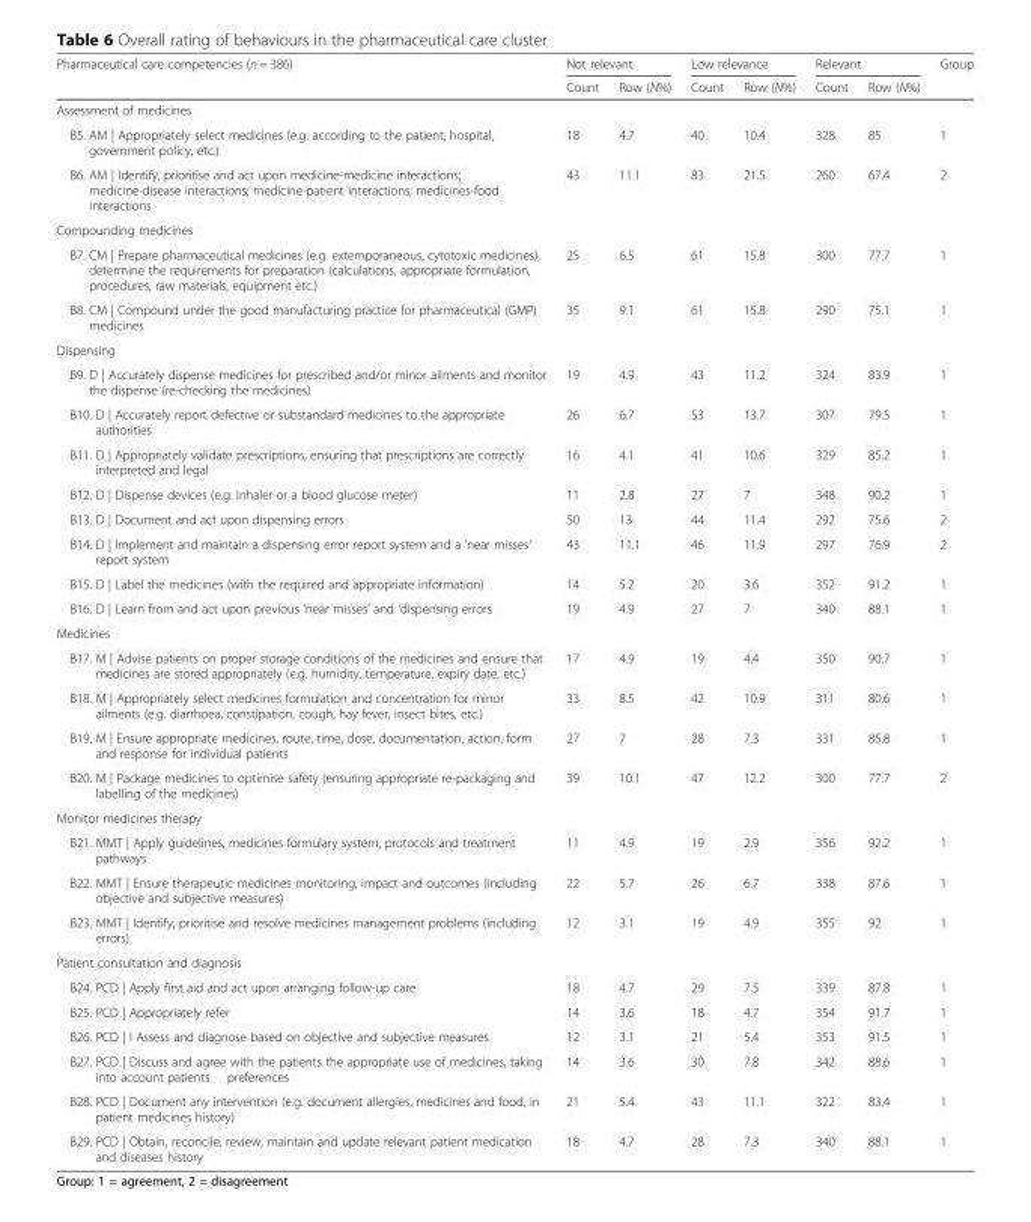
<table><thead><tr><td rowspan="2">Pharmaceutical care competencies (n = 386)</td><td colspan="2">Not relevant</td><td colspan="2">Low relevance</td><td colspan="2">Relevant</td><td rowspan="2">Group</td></tr><tr><td>Count</td><td>Row (N%)</td><td>Count</td><td>Row (N%)</td><td>Count</td><td>Row (N%)</td></tr></thead><tbody><tr><td colspan="8">Assessment of medicines</td></tr><tr><td>B5. AM | Appropriately select medicines (e.g. according to the patient, hospital, government policy, etc.)</td><td>18</td><td>4.7</td><td>40</td><td>10.4</td><td>328</td><td>85</td><td>1</td></tr><tr><td>B6. AM | Identify, prioritise and act upon medicine-medicine interactions; medicine-disease interactions; medicine-patient interactions; medicines-food interactions</td><td>43</td><td>11.1</td><td>83</td><td>21.5</td><td>260</td><td>67.4</td><td>2</td></tr><tr><td colspan="8">Compounding medicines</td></tr><tr><td>B7. CM | Prepare pharmaceutical medicines (e.g. extemporaneous, cytotoxic medicines), determine the requirements for preparation (calculations, appropriate formulation, procedures, raw materials, equipment etc.)</td><td>25</td><td>6.5</td><td>61</td><td>15.8</td><td>300</td><td>77.7</td><td>1</td></tr><tr><td>B8. CM | Compound under the good manufacturing practice for pharmaceutical (GMP) medicines</td><td>35</td><td>9.1</td><td>61</td><td>15.8</td><td>290</td><td>75.1</td><td>1</td></tr><tr><td colspan="8">Dispensing</td></tr><tr><td>B9. D | Accurately dispense medicines for prescribed and/or minor ailments and monitor the dispense (re-checking the medicines)</td><td>19</td><td>4.9</td><td>43</td><td>11.2</td><td>324</td><td>83.9</td><td>1</td></tr><tr><td>B10. D | Accurately report defective or substandard medicines to the appropriate authorities</td><td>26</td><td>6.7</td><td>53</td><td>13.7</td><td>307</td><td>79.5</td><td>1</td></tr><tr><td>B11. D | Appropriately validate prescriptions, ensuring that prescriptions are correctly interpreted and legal</td><td>16</td><td>4.1</td><td>41</td><td>10.6</td><td>329</td><td>85.2</td><td>1</td></tr><tr><td>B12. D | Dispense devices (e.g. Inhaler or a blood glucose meter)</td><td>11</td><td>2.8</td><td>27</td><td>7</td><td>348</td><td>90.2</td><td>1</td></tr><tr><td>B13. D | Document and act upon dispensing errors</td><td>50</td><td>13</td><td>44</td><td>11.4</td><td>292</td><td>75.6</td><td>2</td></tr><tr><td>B14. D | Implement and maintain a dispensing error report system and a ‘near misses’ report system</td><td>43</td><td>11.1</td><td>46</td><td>11.9</td><td>297</td><td>76.9</td><td>2</td></tr><tr><td>B15. D | Label the medicines (with the required and appropriate information)</td><td>14</td><td>5.2</td><td>20</td><td>3.6</td><td>352</td><td>91.2</td><td>1</td></tr><tr><td>B16. D | Learn from and act upon previous ‘near misses’ and ‘dispensing errors</td><td>19</td><td>4.9</td><td>27</td><td>7</td><td>340</td><td>88.1</td><td>1</td></tr><tr><td colspan="8">Medicines</td></tr><tr><td>B17. M | Advise patients on proper storage conditions of the medicines and ensure that medicines are stored appropriately (e.g. humidity, temperature, expiry date, etc.)</td><td>17</td><td>4.9</td><td>19</td><td>4.4</td><td>350</td><td>90.7</td><td>1</td></tr><tr><td>B18. M | Appropriately select medicines formulation and concentration for minor ailments (e.g. diarrhoea, constipation, cough, hay fever, insect bites, etc.)</td><td>33</td><td>8.5</td><td>42</td><td>10.9</td><td>311</td><td>80.6</td><td>1</td></tr><tr><td>B19. M | Ensure appropriate medicines, route, time, dose, documentation, action, form and response for individual patients</td><td>27</td><td>7</td><td>28</td><td>7.3</td><td>331</td><td>85.8</td><td>1</td></tr><tr><td>B20. M | Package medicines to optimise safety (ensuring appropriate re-packaging and labelling of the medicines)</td><td>39</td><td>10.1</td><td>47</td><td>12.2</td><td>300</td><td>77.7</td><td>2</td></tr><tr><td colspan="8">Monitor medicines therapy</td></tr><tr><td>B21. MMT | Apply guidelines, medicines formulary system, protocols and treatment pathways</td><td>11</td><td>4.9</td><td>19</td><td>2.9</td><td>356</td><td>92.2</td><td>1</td></tr><tr><td>B22. MMT | Ensure therapeutic medicines monitoring, impact and outcomes (including objective and subjective measures)</td><td>22</td><td>5.7</td><td>26</td><td>6.7</td><td>338</td><td>87.6</td><td>1</td></tr><tr><td>B23. MMT | Identify, prioritise and resolve medicines management problems (including errors)</td><td>12</td><td>3.1</td><td>19</td><td>4.9</td><td>355</td><td>92</td><td>1</td></tr><tr><td colspan="8">Patient consultation and diagnosis</td></tr><tr><td>B24. PCD | Apply first aid and act upon arranging follow-up care</td><td>18</td><td>4.7</td><td>29</td><td>7.5</td><td>339</td><td>87.8</td><td>1</td></tr><tr><td>B25. PCD | Appropriately refer</td><td>14</td><td>3.6</td><td>18</td><td>4.7</td><td>354</td><td>91.7</td><td>1</td></tr><tr><td>B26. PCD | l Assess and diagnose based on objective and subjective measures</td><td>12</td><td>3.1</td><td>21</td><td>5.4</td><td>353</td><td>91.5</td><td>1</td></tr><tr><td>B27. PCD | Discuss and agree with the patients the appropriate use of medicines, taking into account patients preferences</td><td>14</td><td>3.6</td><td>30</td><td>7.8</td><td>342</td><td>88.6</td><td>1</td></tr><tr><td>B28. PCD | Document any intervention (e.g. document allergies, medicines and food, in patient medicines history)</td><td>21</td><td>5.4</td><td>43</td><td>11.1</td><td>322</td><td>83.4</td><td>1</td></tr><tr><td>B29. PCD | Obtain, reconcile, review, maintain and update relevant patient medication and diseases history</td><td>18</td><td>4.7</td><td>28</td><td>7.3</td><td>340</td><td>88.1</td><td>1</td></tr></tbody></table>